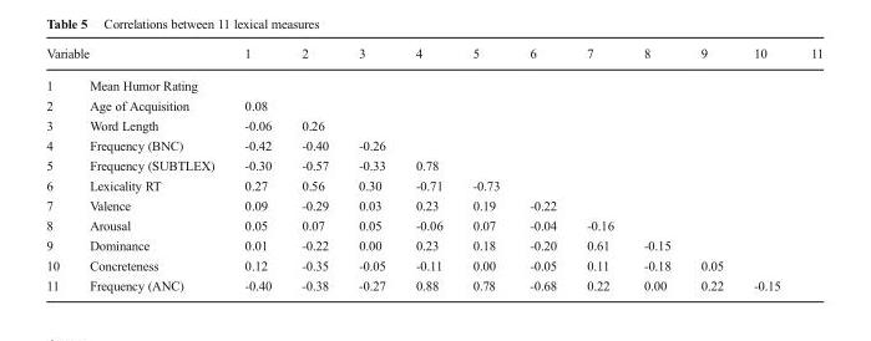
<table><thead><tr><td colspan="2">Variable</td><td rowspan="2">1</td><td rowspan="2">2</td><td rowspan="2">3</td><td rowspan="2">4</td><td rowspan="2">5</td><td rowspan="2">6</td><td rowspan="2">7</td><td rowspan="2">8</td><td rowspan="2">9</td><td rowspan="2">10</td><td rowspan="2">11</td></tr><tr><td>1</td><td>Mean Humor Rating</td></tr></thead><tbody><tr><td>2</td><td>Age of Acquisition</td><td>0.08</td><td></td><td></td><td></td><td></td><td></td><td></td><td></td><td></td><td></td><td></td></tr><tr><td>3</td><td>Word Length</td><td>-0.06</td><td>0.26</td><td></td><td></td><td></td><td></td><td></td><td></td><td></td><td></td><td></td></tr><tr><td>4</td><td>Frequency (BNC)</td><td>-0.42</td><td>-0.40</td><td>-0.26</td><td></td><td></td><td></td><td></td><td></td><td></td><td></td><td></td></tr><tr><td>5</td><td>Frequency (SUBTLEX)</td><td>-0.30</td><td>-0.57</td><td>-0.33</td><td>0.78</td><td></td><td></td><td></td><td></td><td></td><td></td><td></td></tr><tr><td>6</td><td>Lexicality RT</td><td>0.27</td><td>0.56</td><td>0.30</td><td>-0.71</td><td>-0.73</td><td></td><td></td><td></td><td></td><td></td><td></td></tr><tr><td>7</td><td>Valence</td><td>0.09</td><td>-0.29</td><td>0.03</td><td>0.23</td><td>0.19</td><td>-0.22</td><td></td><td></td><td></td><td></td><td></td></tr><tr><td>8</td><td>Arousal</td><td>0.05</td><td>0.07</td><td>0.05</td><td>-0.06</td><td>0.07</td><td>-0.04</td><td>-0.16</td><td></td><td></td><td></td><td></td></tr><tr><td>9</td><td>Dominance</td><td>0.01</td><td>-0.22</td><td>0.00</td><td>0.23</td><td>0.18</td><td>-0.20</td><td>0.61</td><td>-0.15</td><td></td><td></td><td></td></tr><tr><td>10</td><td>Concreteness</td><td>0.12</td><td>-0.35</td><td>-0.05</td><td>-0.11</td><td>0.00</td><td>-0.05</td><td>0.11</td><td>-0.18</td><td>0.05</td><td></td><td></td></tr><tr><td>11</td><td>Frequency (ANC)</td><td>-0.40</td><td>-0.38</td><td>-0.27</td><td>0.88</td><td>0.78</td><td>-0.68</td><td>0.22</td><td>0.00</td><td>0.22</td><td>-0.15</td><td></td></tr></tbody></table>